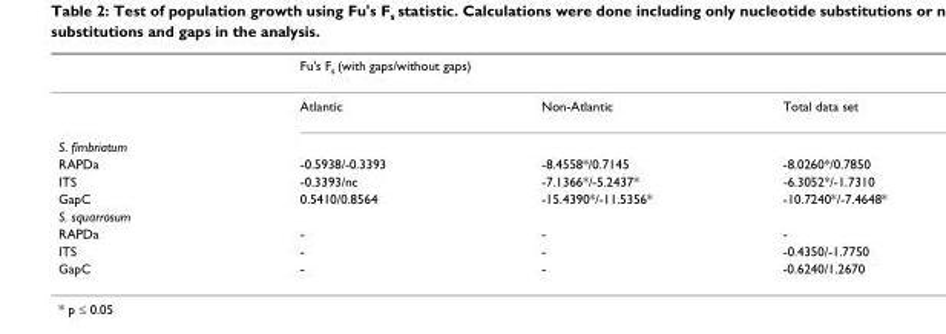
<table><thead><tr><td rowspan="2"></td><td colspan="3">Fu&#x27;s F<sub>s</sub> (with gaps/without gaps)</td></tr><tr><td>Atlantic</td><td>Non-Atlantic</td><td>Total data set</td></tr></thead><tbody><tr><td colspan="4">S. fimbriatum</td></tr><tr><td>RAPDa</td><td>-0.5938/-0.3393</td><td>-8.4558*/0.7145</td><td>-8.0260*/0.7850</td></tr><tr><td>ITS</td><td>-0.3393/nc</td><td>-7.1366*/-5.2437*</td><td>-6.3052*/-1.7310</td></tr><tr><td>GapC</td><td>0.5410/0.8564</td><td>-15.4390*/-11.5356*</td><td>-10.7240*/-7.4648*</td></tr><tr><td colspan="4">S. squarrosum</td></tr><tr><td>RAPDa</td><td>-</td><td>-</td><td>-</td></tr><tr><td>ITS</td><td>-</td><td>-</td><td>-0.4350/-1.7750</td></tr><tr><td>GapC</td><td>-</td><td>-</td><td>-0.6240/1.2670</td></tr></tbody></table>